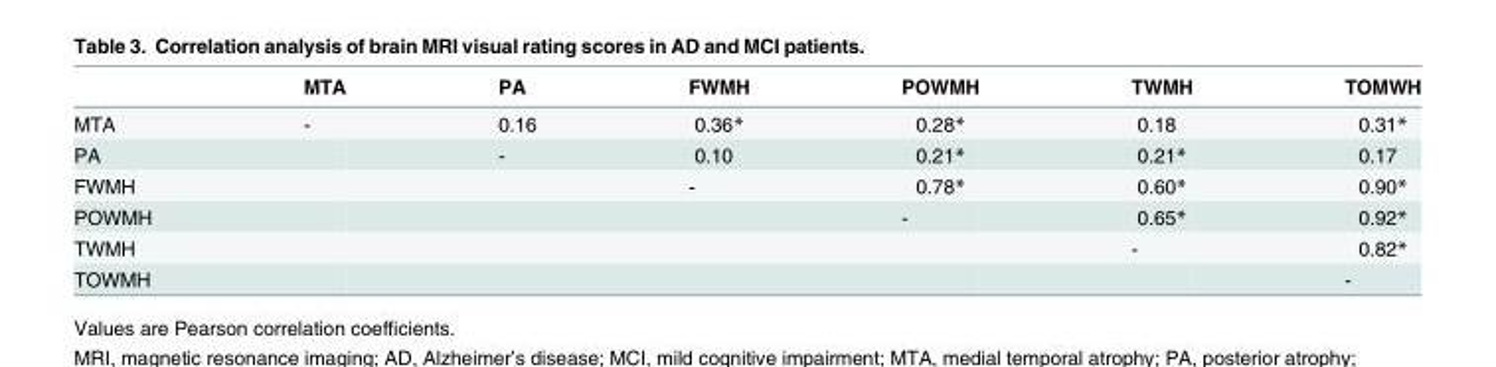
<table><thead><tr><td></td><td>MTA</td><td>PA</td><td>FWMH</td><td>POWMH</td><td>TWMH</td><td>TOMWH</td></tr></thead><tbody><tr><td>MTA</td><td>-</td><td>0.16</td><td>0.36*</td><td>0.28*</td><td>0.18</td><td>0.31*</td></tr><tr><td>PA</td><td></td><td>-</td><td>0.10</td><td>0.21*</td><td>0.21*</td><td>0.17</td></tr><tr><td>FWMH</td><td></td><td></td><td>-</td><td>0.78*</td><td>0.60*</td><td>0.90*</td></tr><tr><td>POWMH</td><td></td><td></td><td></td><td>-</td><td>0.65*</td><td>0.92*</td></tr><tr><td>TWMH</td><td></td><td></td><td></td><td></td><td>-</td><td>0.82*</td></tr><tr><td>TOWMH</td><td></td><td></td><td></td><td></td><td></td><td>-</td></tr></tbody></table>